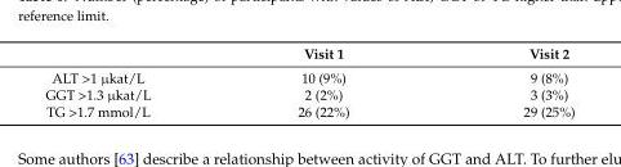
<table><thead><tr><td></td><td>Visit 1</td><td>Visit 2</td></tr></thead><tbody><tr><td>ALT &gt;1 µkat/L</td><td>10 (9%)</td><td>9 (8%)</td></tr><tr><td>GGT &gt;1.3 µkat/L</td><td>2 (2%)</td><td>3 (3%)</td></tr><tr><td>TG &gt;1.7 mmol/L</td><td>26 (22%)</td><td>29 (25%)</td></tr></tbody></table>